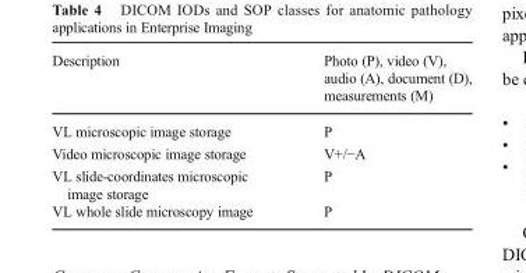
<table><thead><tr><td>Description</td><td>Photo (P), video (V), audio (A), document (D), measurements (M)</td></tr></thead><tbody><tr><td>VL microscopic image storage</td><td>P</td></tr><tr><td>Video microscopic image storage</td><td>V+/−A</td></tr><tr><td>VL slide-coordinates microscopic image storage</td><td>P</td></tr><tr><td>VL whole slide microscopy image</td><td>P</td></tr></tbody></table>